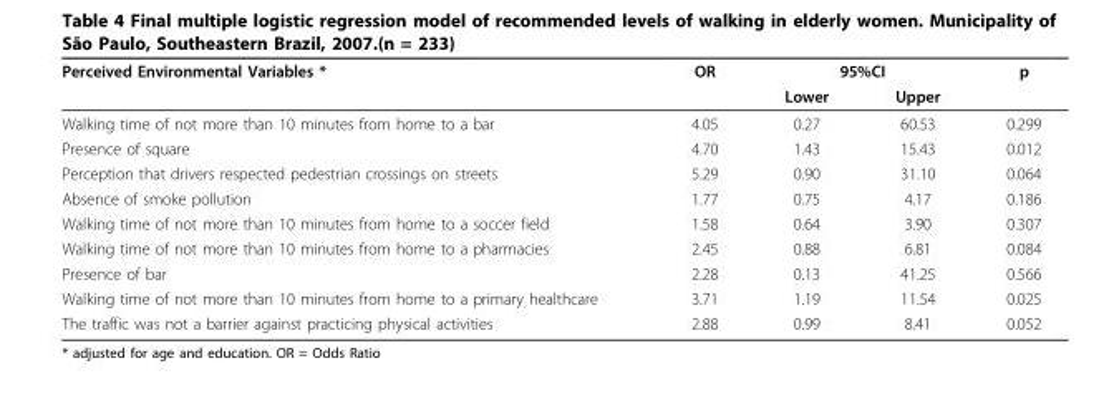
<table><thead><tr><td rowspan="2">Perceived Environmental Variables *</td><td rowspan="2">OR</td><td colspan="2">95%CI</td><td rowspan="2">p</td></tr><tr><td>Lower</td><td>Upper</td></tr></thead><tbody><tr><td>Walking time of not more than 10 minutes from home to a bar</td><td>4.05</td><td>0.27</td><td>60.53</td><td>0.299</td></tr><tr><td>Presence of square</td><td>4.70</td><td>1.43</td><td>15.43</td><td>0.012</td></tr><tr><td>Perception that drivers respected pedestrian crossings on streets</td><td>5.29</td><td>0.90</td><td>31.10</td><td>0.064</td></tr><tr><td>Absence of smoke pollution</td><td>1.77</td><td>0.75</td><td>4.17</td><td>0.186</td></tr><tr><td>Walking time of not more than 10 minutes from home to a soccer field</td><td>1.58</td><td>0.64</td><td>3.90</td><td>0.307</td></tr><tr><td>Walking time of not more than 10 minutes from home to a pharmacies</td><td>2.45</td><td>0.88</td><td>6.81</td><td>0.084</td></tr><tr><td>Presence of bar</td><td>2.28</td><td>0.13</td><td>41.25</td><td>0.566</td></tr><tr><td>Walking time of not more than 10 minutes from home to a primary healthcare</td><td>3.71</td><td>1.19</td><td>11.54</td><td>0.025</td></tr><tr><td>The traffic was not a barrier against practicing physical activities</td><td>2.88</td><td>0.99</td><td>8.41</td><td>0.052</td></tr></tbody></table>